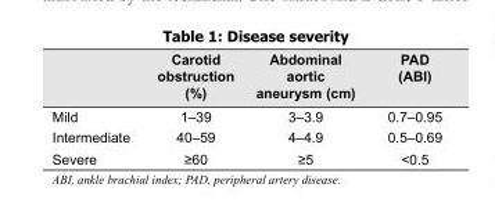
<table><thead><tr><td></td><td>Carotid obstruction (%)</td><td>Abdominal aortic aneurysm (cm)</td><td>PAD (ABI)</td></tr></thead><tbody><tr><td>Mild</td><td>1–39</td><td>3–3.9</td><td>0.7–0.95</td></tr><tr><td>Intermediate</td><td>40–59</td><td>4–4.9</td><td>0.5–0.69</td></tr><tr><td>Severe</td><td>≥60</td><td>≥5</td><td>&lt;0.5</td></tr></tbody></table>